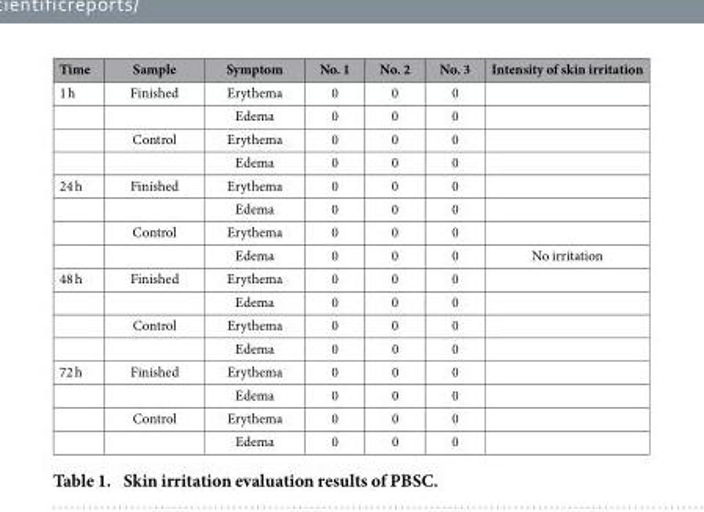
<table><thead><tr><td>Time</td><td>Sample</td><td>Symptom</td><td>No. 1</td><td>No. 2</td><td>No. 3</td><td>Intensity of skin irritation</td></tr></thead><tbody><tr><td rowspan="4">1 h</td><td>Finished</td><td>Erythema</td><td>0</td><td>0</td><td>0</td><td></td></tr><tr><td></td><td>Edema</td><td>0</td><td>0</td><td>0</td><td></td></tr><tr><td>Control</td><td>Erythema</td><td>0</td><td>0</td><td>0</td><td></td></tr><tr><td></td><td>Edema</td><td>0</td><td>0</td><td>0</td><td></td></tr><tr><td rowspan="4">24 h</td><td>Finished</td><td>Erythema</td><td>0</td><td>0</td><td>0</td><td></td></tr><tr><td></td><td>Edema</td><td>0</td><td>0</td><td>0</td><td></td></tr><tr><td>Control</td><td>Erythema</td><td>0</td><td>0</td><td>0</td><td></td></tr><tr><td></td><td>Edema</td><td>0</td><td>0</td><td>0</td><td>No irritation</td></tr><tr><td rowspan="4">48 h</td><td>Finished</td><td>Erythema</td><td>0</td><td>0</td><td>0</td><td></td></tr><tr><td></td><td>Edema</td><td>0</td><td>0</td><td>0</td><td></td></tr><tr><td>Control</td><td>Erythema</td><td>0</td><td>0</td><td>0</td><td></td></tr><tr><td></td><td>Edema</td><td>0</td><td>0</td><td>0</td><td></td></tr><tr><td rowspan="4">72 h</td><td>Finished</td><td>Erythema</td><td>0</td><td>0</td><td>0</td><td></td></tr><tr><td></td><td>Edema</td><td>0</td><td>0</td><td>0</td><td></td></tr><tr><td>Control</td><td>Erythema</td><td>0</td><td>0</td><td>0</td><td></td></tr><tr><td></td><td>Edema</td><td>0</td><td>0</td><td>0</td><td></td></tr></tbody></table>